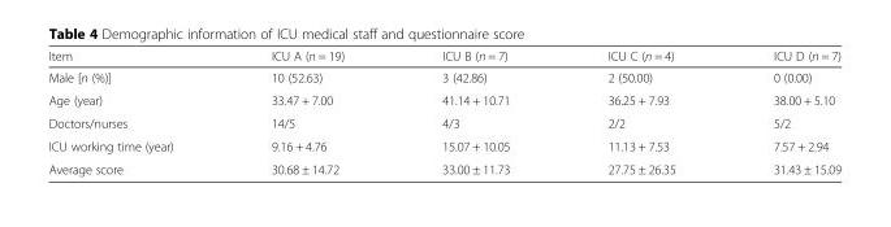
<table><thead><tr><td>Item</td><td>ICU A (n = 19)</td><td>ICU B (n = 7)</td><td>ICU C (n = 4)</td><td>ICU D (n = 7)</td></tr></thead><tbody><tr><td>Male [n (%)]</td><td>10 (52.63)</td><td>3 (42.86)</td><td>2 (50.00)</td><td>0 (0.00)</td></tr><tr><td>Age (year)</td><td>33.47 + 7.00</td><td>41.14 + 10.71</td><td>36.25 + 7.93</td><td>38.00 + 5.10</td></tr><tr><td>Doctors/nurses</td><td>14/5</td><td>4/3</td><td>2/2</td><td>5/2</td></tr><tr><td>ICU working time (year)</td><td>9.16 + 4.76</td><td>15.07 + 10.05</td><td>11.13 + 7.53</td><td>7.57 + 2.94</td></tr><tr><td>Average score</td><td>30.68 ± 14.72</td><td>33.00 ± 11.73</td><td>27.75 ± 26.35</td><td>31.43 ± 15.09</td></tr></tbody></table>